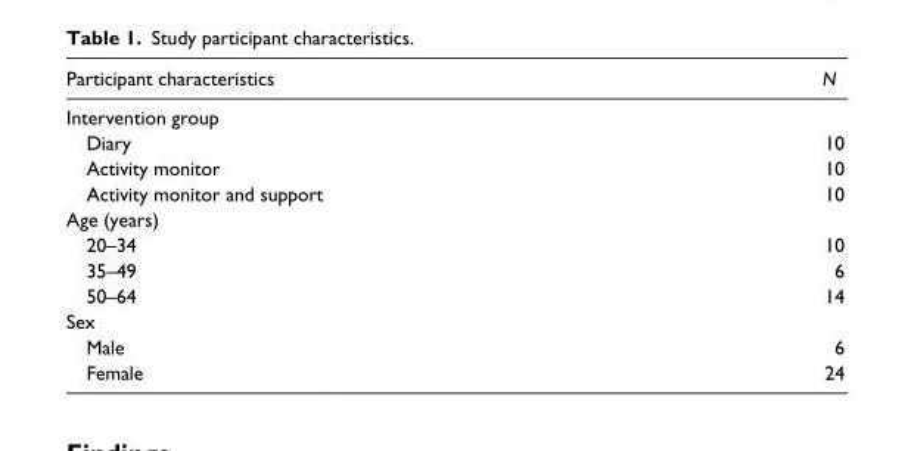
<table><thead><tr><td>Participant characteristics</td><td>N</td></tr></thead><tbody><tr><td colspan="2">Intervention group</td></tr><tr><td>Diary</td><td>10</td></tr><tr><td>Activity monitor</td><td>10</td></tr><tr><td>Activity monitor and support</td><td>10</td></tr><tr><td colspan="2">Age (years)</td></tr><tr><td>20–34</td><td>10</td></tr><tr><td>35–49</td><td>6</td></tr><tr><td>50–64</td><td>14</td></tr><tr><td colspan="2">Sex</td></tr><tr><td>Male</td><td>6</td></tr><tr><td>Female</td><td>24</td></tr></tbody></table>